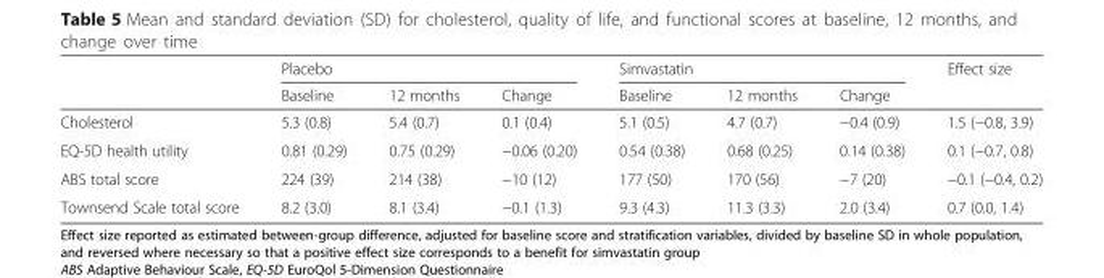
<table><thead><tr><td rowspan="2"></td><td colspan="3">Placebo</td><td colspan="3">Simvastatin</td><td rowspan="2">Effect size</td></tr><tr><td>Baseline</td><td>12 months</td><td>Change</td><td>Baseline</td><td>12 months</td><td>Change</td></tr></thead><tbody><tr><td>Cholesterol</td><td>5.3 (0.8)</td><td>5.4 (0.7)</td><td>0.1 (0.4)</td><td>5.1 (0.5)</td><td>4.7 (0.7)</td><td>−0.4 (0.9)</td><td>1.5 (−0.8, 3.9)</td></tr><tr><td>EQ-5D health utility</td><td>0.81 (0.29)</td><td>0.75 (0.29)</td><td>−0.06 (0.20)</td><td>0.54 (0.38)</td><td>0.68 (0.25)</td><td>0.14 (0.38)</td><td>0.1 (−0.7, 0.8)</td></tr><tr><td>ABS total score</td><td>224 (39)</td><td>214 (38)</td><td>−10 (12)</td><td>177 (50)</td><td>170 (56)</td><td>−7 (20)</td><td>−0.1 (−0.4, 0.2)</td></tr><tr><td>Townsend Scale total score</td><td>8.2 (3.0)</td><td>8.1 (3.4)</td><td>−0.1 (1.3)</td><td>9.3 (4.3)</td><td>11.3 (3.3)</td><td>2.0 (3.4)</td><td>0.7 (0.0, 1.4)</td></tr></tbody></table>